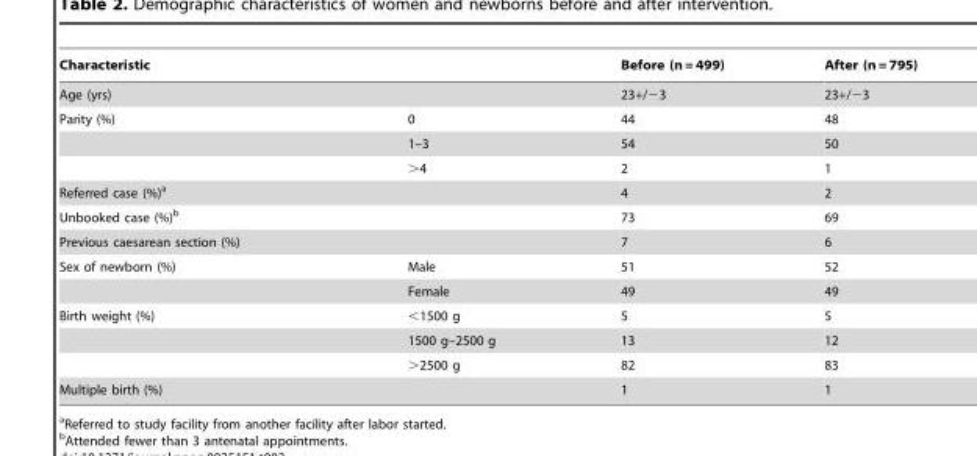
<table><thead><tr><td>Characteristic</td><td></td><td>Before (n = 499)</td><td>After (n = 795)</td></tr></thead><tbody><tr><td>Age (yrs)</td><td></td><td>23+/−3</td><td>23+/−3</td></tr><tr><td rowspan="3">Parity (%)</td><td>0</td><td>44</td><td>48</td></tr><tr><td>1–3</td><td>54</td><td>50</td></tr><tr><td>&gt;4</td><td>2</td><td>1</td></tr><tr><td>Referred case (%)<sup>a</sup></td><td></td><td>4</td><td>2</td></tr><tr><td>Unbooked case (%)<sup>b</sup></td><td></td><td>73</td><td>69</td></tr><tr><td>Previous caesarean section (%)</td><td></td><td>7</td><td>6</td></tr><tr><td rowspan="2">Sex of newborn (%)</td><td>Male</td><td>51</td><td>52</td></tr><tr><td>Female</td><td>49</td><td>49</td></tr><tr><td rowspan="3">Birth weight (%)</td><td>&lt;1500 g</td><td>5</td><td>5</td></tr><tr><td>1500 g–2500 g</td><td>13</td><td>12</td></tr><tr><td>&gt;2500 g</td><td>82</td><td>83</td></tr><tr><td>Multiple birth (%)</td><td></td><td>1</td><td>1</td></tr></tbody></table>